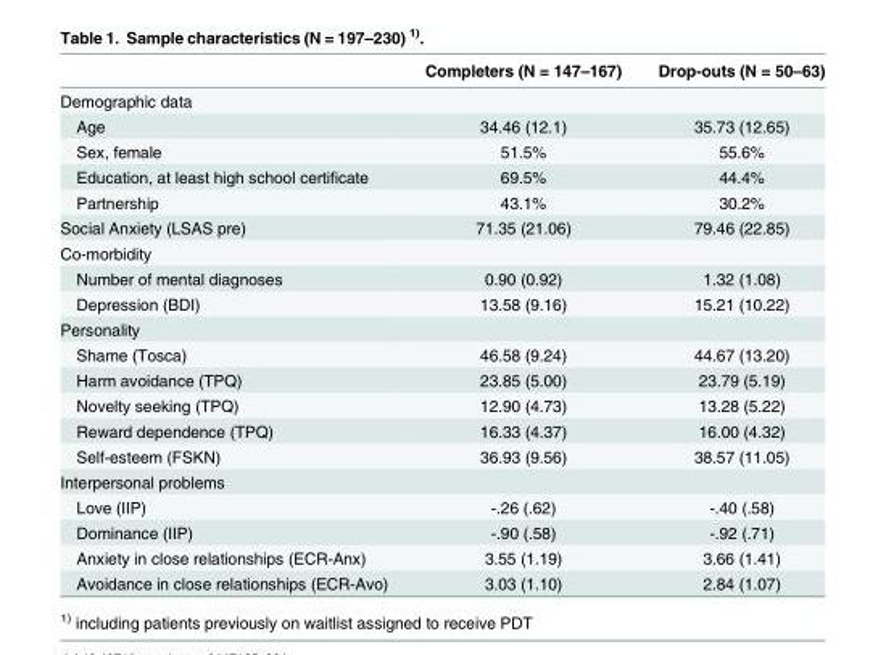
<table><thead><tr><td></td><td>Completers (N = 147–167)</td><td>Drop-outs (N = 50–63)</td></tr></thead><tbody><tr><td colspan="3">Demographic data</td></tr><tr><td>Age</td><td>34.46 (12.1)</td><td>35.73 (12.65)</td></tr><tr><td>Sex, female</td><td>51.5%</td><td>55.6%</td></tr><tr><td>Education, at least high school certificate</td><td>69.5%</td><td>44.4%</td></tr><tr><td>Partnership</td><td>43.1%</td><td>30.2%</td></tr><tr><td>Social Anxiety (LSAS pre)</td><td>71.35 (21.06)</td><td>79.46 (22.85)</td></tr><tr><td colspan="3">Co-morbidity</td></tr><tr><td>Number of mental diagnoses</td><td>0.90 (0.92)</td><td>1.32 (1.08)</td></tr><tr><td>Depression (BDI)</td><td>13.58 (9.16)</td><td>15.21 (10.22)</td></tr><tr><td colspan="3">Personality</td></tr><tr><td>Shame (Tosca)</td><td>46.58 (9.24)</td><td>44.67 (13.20)</td></tr><tr><td>Harm avoidance (TPQ)</td><td>23.85 (5.00)</td><td>23.79 (5.19)</td></tr><tr><td>Novelty seeking (TPQ)</td><td>12.90 (4.73)</td><td>13.28 (5.22)</td></tr><tr><td>Reward dependence (TPQ)</td><td>16.33 (4.37)</td><td>16.00 (4.32)</td></tr><tr><td>Self-esteem (FSKN)</td><td>36.93 (9.56)</td><td>38.57 (11.05)</td></tr><tr><td colspan="3">Interpersonal problems</td></tr><tr><td>Love (IIP)</td><td>-.26 (.62)</td><td>-.40 (.58)</td></tr><tr><td>Dominance (IIP)</td><td>-.90 (.58)</td><td>-.92 (.71)</td></tr><tr><td>Anxiety in close relationships (ECR-Anx)</td><td>3.55 (1.19)</td><td>3.66 (1.41)</td></tr><tr><td>Avoidance in close relationships (ECR-Avo)</td><td>3.03 (1.10)</td><td>2.84 (1.07)</td></tr></tbody></table>